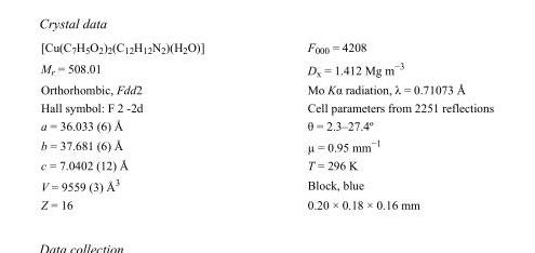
<table><tbody><tr><td>[Cu(C<sub>7</sub>H<sub>5</sub>O<sub>2</sub>)<sub>2</sub>(C<sub>12</sub>H<sub>12</sub>N<sub>2</sub>)(H<sub>2</sub>O)]</td><td>F000 = 4208</td></tr><tr><td>M<sub>r</sub> = 508.01</td><td>D<sub>x</sub> = 1.412 Mg m<sup>−3</sup></td></tr><tr><td>Orthorhombic, Fdd2</td><td>Mo Kα radiation, λ = 0.71073 Å</td></tr><tr><td>Hall symbol: F 2 -2d</td><td>Cell parameters from 2251 reflections</td></tr><tr><td>a = 36.033 (6) Å</td><td>θ = 2.3–27.4º</td></tr><tr><td>b = 37.681 (6) Å</td><td>µ = 0.95 mm<sup>−1</sup></td></tr><tr><td>c = 7.0402 (12) Å</td><td>T = 296 K</td></tr><tr><td>V = 9559 (3) Å<sup>3</sup></td><td>Block, blue</td></tr><tr><td>Z = 16</td><td>0.20 × 0.18 × 0.16 mm</td></tr></tbody></table>